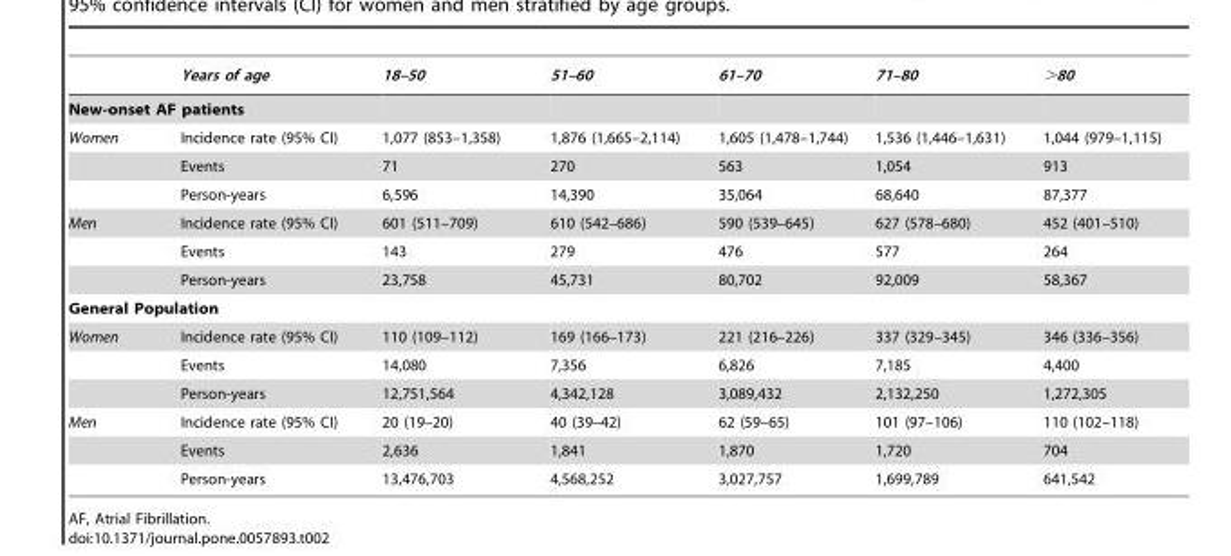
<table><thead><tr><td></td><td>Years of age</td><td>18–50</td><td>51–60</td><td>61–70</td><td>71–80</td><td>&gt;80</td></tr></thead><tbody><tr><td colspan="7">New-onset AF patients</td></tr><tr><td rowspan="3">Women</td><td>Incidence rate (95% CI)</td><td>1,077 (853–1,358)</td><td>1,876 (1,665–2,114)</td><td>1,605 (1,478–1,744)</td><td>1,536 (1,446–1,631)</td><td>1,044 (979–1,115)</td></tr><tr><td>Events</td><td>71</td><td>270</td><td>563</td><td>1,054</td><td>913</td></tr><tr><td>Person-years</td><td>6,596</td><td>14,390</td><td>35,064</td><td>68,640</td><td>87,377</td></tr><tr><td rowspan="3">Men</td><td>Incidence rate (95% CI)</td><td>601 (511–709)</td><td>610 (542–686)</td><td>590 (539–645)</td><td>627 (578–680)</td><td>452 (401–510)</td></tr><tr><td>Events</td><td>143</td><td>279</td><td>476</td><td>577</td><td>264</td></tr><tr><td>Person-years</td><td>23,758</td><td>45,731</td><td>80,702</td><td>92,009</td><td>58,367</td></tr><tr><td colspan="7">General Population</td></tr><tr><td rowspan="3">Women</td><td>Incidence rate (95% CI)</td><td>110 (109–112)</td><td>169 (166–173)</td><td>221 (216–226)</td><td>337 (329–345)</td><td>346 (336–356)</td></tr><tr><td>Events</td><td>14,080</td><td>7,356</td><td>6,826</td><td>7,185</td><td>4,400</td></tr><tr><td>Person-years</td><td>12,751,564</td><td>4,342,128</td><td>3,089,432</td><td>2,132,250</td><td>1,272,305</td></tr><tr><td rowspan="3">Men</td><td>Incidence rate (95% CI)</td><td>20 (19–20)</td><td>40 (39–42)</td><td>62 (59–65)</td><td>101 (97–106)</td><td>110 (102–118)</td></tr><tr><td>Events</td><td>2,636</td><td>1,841</td><td>1,870</td><td>1,720</td><td>704</td></tr><tr><td>Person-years</td><td>13,476,703</td><td>4,568,252</td><td>3,027,757</td><td>1,699,789</td><td>641,542</td></tr></tbody></table>